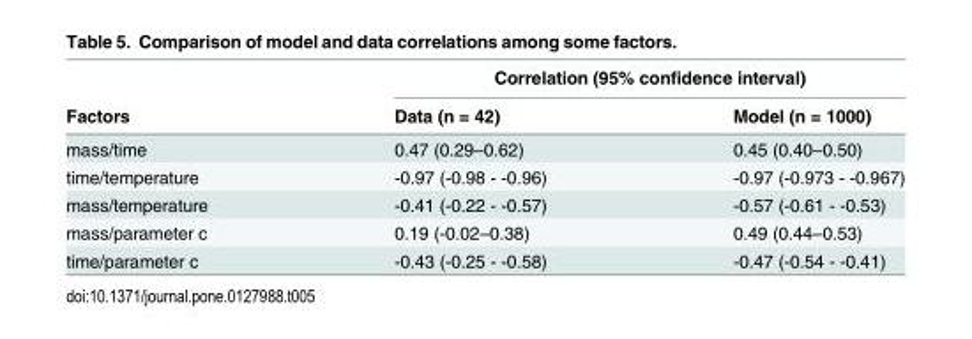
<table><thead><tr><td rowspan="2">Factors</td><td colspan="2">Correlation (95% confidence interval)</td></tr><tr><td>Data (n = 42)</td><td>Model (n = 1000)</td></tr></thead><tbody><tr><td>mass/time</td><td>0.47 (0.29–0.62)</td><td>0.45 (0.40–0.50)</td></tr><tr><td>time/temperature</td><td>-0.97 (-0.98 - -0.96)</td><td>-0.97 (-0.973 - -0.967)</td></tr><tr><td>mass/temperature</td><td>-0.41 (-0.22 - -0.57)</td><td>-0.57 (-0.61 - -0.53)</td></tr><tr><td>mass/parameter c</td><td>0.19 (-0.02–0.38)</td><td>0.49 (0.44–0.53)</td></tr><tr><td>time/parameter c</td><td>-0.43 (-0.25 - -0.58)</td><td>-0.47 (-0.54 - -0.41)</td></tr></tbody></table>